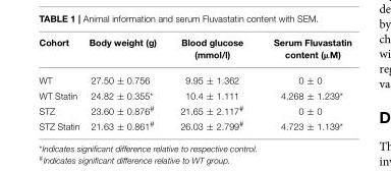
<table><thead><tr><td>Cohort</td><td>Body weight (g)</td><td>Blood glucose (mmol/l)</td><td>Serum Fluvastatin content (µM)</td></tr></thead><tbody><tr><td>WT</td><td>27.50 ± 0.756</td><td>9.95 ± 1.362</td><td>0 ± 0</td></tr><tr><td>WT Statin</td><td>24.82 ± 0.355*</td><td>10.4 ± 1.111</td><td>4.268 ± 1.239*</td></tr><tr><td>STZ</td><td>23.60 ± 0.876<sup>#</sup></td><td>21.65 ± 2.117<sup>#</sup></td><td>0 ± 0</td></tr><tr><td>STZ Statin</td><td>21.63 ± 0.861<sup>#</sup></td><td>26.03 ± 2.799<sup>#</sup></td><td>4.723 ± 1.139*</td></tr></tbody></table>